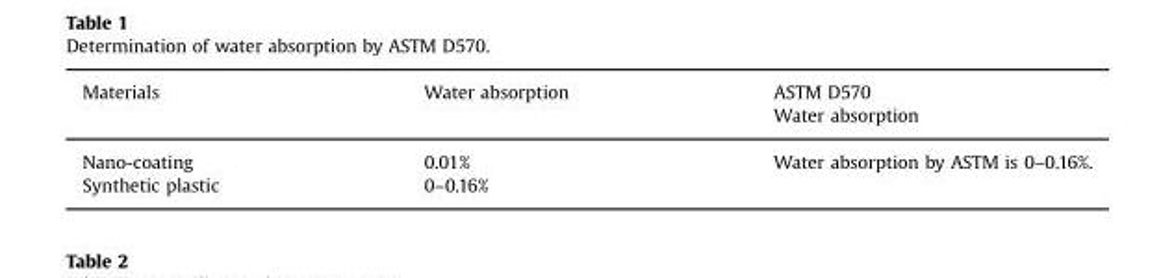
<table><thead><tr><td rowspan="2">Materials</td><td rowspan="2">Water absorption</td><td rowspan="2">ASTM D570 Water absorption</td></tr><tr></tr></thead><tbody><tr><td>Nano-coating</td><td>0.01%</td><td rowspan="2">Water absorption by ASTM is 0–0.16%.</td></tr><tr><td>Synthetic plastic</td><td>0–0.16%</td></tr></tbody></table>